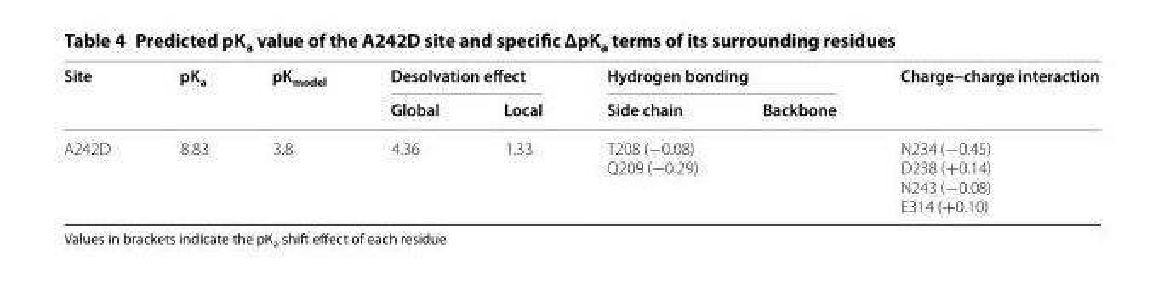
<table><thead><tr><td rowspan="2">Site</td><td rowspan="2">pK<sub>a</sub></td><td rowspan="2">pK<sub>model</sub></td><td colspan="2">Desolvation effect</td><td colspan="2">Hydrogen bonding</td><td rowspan="2">Charge–charge interaction</td></tr><tr><td>Global</td><td>Local</td><td>Side chain</td><td>Backbone</td></tr></thead><tbody><tr><td>A242D</td><td>8.83</td><td>3.8</td><td>4.36</td><td>1.33</td><td>T208 (−0.08) Q209 (−0.29)</td><td></td><td>N234 (−0.45) D238 (+0.14) N243 (−0.08) E314 (+0.10)</td></tr></tbody></table>